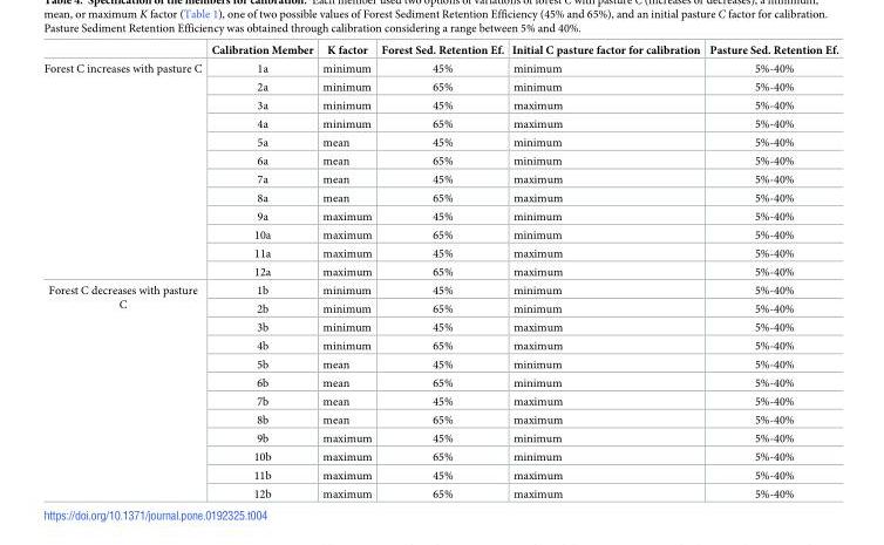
<table><thead><tr><td></td><td>Calibration Member</td><td>K factor</td><td>Forest Sed. Retention Ef.</td><td>Initial C pasture factor for calibration</td><td>Pasture Sed. Retention Ef.</td></tr></thead><tbody><tr><td rowspan="12">Forest C increases with pasture C</td><td>1a</td><td>minimum</td><td>45%</td><td>minimum</td><td>5%-40%</td></tr><tr><td>2a</td><td>minimum</td><td>65%</td><td>minimum</td><td>5%-40%</td></tr><tr><td>3a</td><td>minimum</td><td>45%</td><td>maximum</td><td>5%-40%</td></tr><tr><td>4a</td><td>minimum</td><td>65%</td><td>maximum</td><td>5%-40%</td></tr><tr><td>5a</td><td>mean</td><td>45%</td><td>minimum</td><td>5%-40%</td></tr><tr><td>6a</td><td>mean</td><td>65%</td><td>minimum</td><td>5%-40%</td></tr><tr><td>7a</td><td>mean</td><td>45%</td><td>maximum</td><td>5%-40%</td></tr><tr><td>8a</td><td>mean</td><td>65%</td><td>maximum</td><td>5%-40%</td></tr><tr><td>9a</td><td>maximum</td><td>45%</td><td>minimum</td><td>5%-40%</td></tr><tr><td>10a</td><td>maximum</td><td>65%</td><td>minimum</td><td>5%-40%</td></tr><tr><td>11a</td><td>maximum</td><td>45%</td><td>maximum</td><td>5%-40%</td></tr><tr><td>12a</td><td>maximum</td><td>65%</td><td>maximum</td><td>5%-40%</td></tr><tr><td rowspan="12">Forest C decreases with pasture C</td><td>1b</td><td>minimum</td><td>45%</td><td>minimum</td><td>5%-40%</td></tr><tr><td>2b</td><td>minimum</td><td>65%</td><td>minimum</td><td>5%-40%</td></tr><tr><td>3b</td><td>minimum</td><td>45%</td><td>maximum</td><td>5%-40%</td></tr><tr><td>4b</td><td>minimum</td><td>65%</td><td>maximum</td><td>5%-40%</td></tr><tr><td>5b</td><td>mean</td><td>45%</td><td>minimum</td><td>5%-40%</td></tr><tr><td>6b</td><td>mean</td><td>65%</td><td>minimum</td><td>5%-40%</td></tr><tr><td>7b</td><td>mean</td><td>45%</td><td>maximum</td><td>5%-40%</td></tr><tr><td>8b</td><td>mean</td><td>65%</td><td>maximum</td><td>5%-40%</td></tr><tr><td>9b</td><td>maximum</td><td>45%</td><td>minimum</td><td>5%-40%</td></tr><tr><td>10b</td><td>maximum</td><td>65%</td><td>minimum</td><td>5%-40%</td></tr><tr><td>11b</td><td>maximum</td><td>45%</td><td>maximum</td><td>5%-40%</td></tr><tr><td>12b</td><td>maximum</td><td>65%</td><td>maximum</td><td>5%-40%</td></tr></tbody></table>